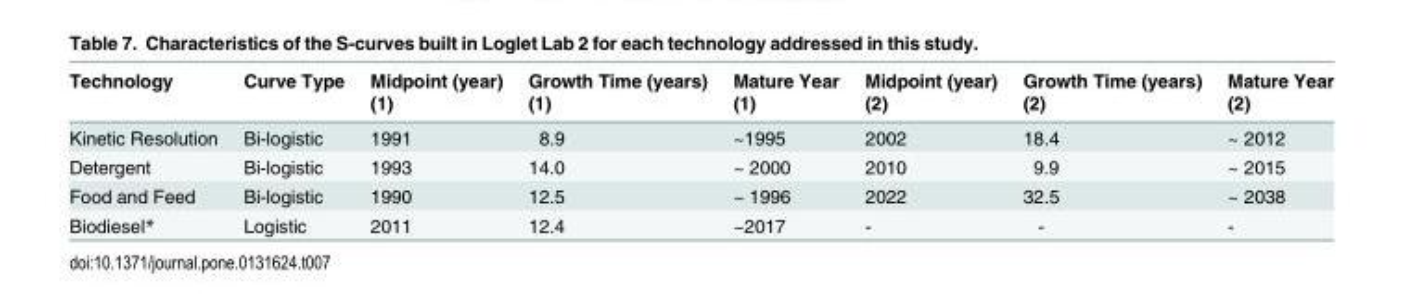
<table><thead><tr><td rowspan="2">Technology</td><td rowspan="2">Curve Type</td><td rowspan="2">Midpoint (year) (1)</td><td rowspan="2">Growth Time (years) (1)</td><td rowspan="2">Mature Year (1)</td><td rowspan="2">Midpoint (year) (2)</td><td rowspan="2">Growth Time (years) (2)</td><td rowspan="2">Mature Year (2)</td></tr><tr></tr></thead><tbody><tr><td>Kinetic Resolution</td><td>Bi-logistic</td><td>1991</td><td>8.9</td><td>~1995</td><td>2002</td><td>18.4</td><td>~ 2012</td></tr><tr><td>Detergent</td><td>Bi-logistic</td><td>1993</td><td>14.0</td><td>~ 2000</td><td>2010</td><td>9.9</td><td>~ 2015</td></tr><tr><td>Food and Feed</td><td>Bi-logistic</td><td>1990</td><td>12.5</td><td>~ 1996</td><td>2022</td><td>32.5</td><td>~ 2038</td></tr><tr><td>Biodiesel*</td><td>Logistic</td><td>2011</td><td>12.4</td><td>~2017</td><td>-</td><td>-</td><td>-</td></tr></tbody></table>